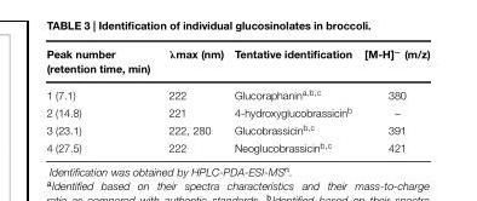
<table><thead><tr><td>Peak number (retention time, min)</td><td>λmax (nm)</td><td>Tentative identification</td><td>[M-H]<sup>−</sup> (m/z)</td></tr></thead><tbody><tr><td>1 (7.1)</td><td>222</td><td>Glucoraphanin<sup>a,b,c</sup></td><td>380</td></tr><tr><td>2 (14.8)</td><td>221</td><td>4-hydroxyglucobrassicin<sup>b</sup></td><td>–</td></tr><tr><td>3 (23.1)</td><td>222, 280</td><td>Glucobrassicin<sup>b,c</sup></td><td>391</td></tr><tr><td>4 (27.5)</td><td>222</td><td>Neoglucobrassicin<sup>b,c</sup></td><td>421</td></tr></tbody></table>